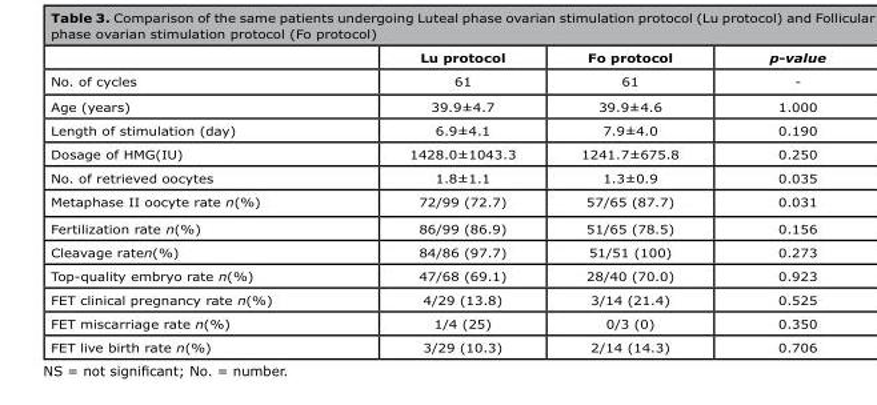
<table><thead><tr><td></td><td>Lu protocol</td><td>Fo protocol</td><td>p-value</td></tr></thead><tbody><tr><td>No. of cycles</td><td>61</td><td>61</td><td>-</td></tr><tr><td>Age (years)</td><td>39.9±4.7</td><td>39.9±4.6</td><td>1.000</td></tr><tr><td>Length of stimulation (day)</td><td>6.9±4.1</td><td>7.9±4.0</td><td>0.190</td></tr><tr><td>Dosage of HMG(IU)</td><td>1428.0±1043.3</td><td>1241.7±675.8</td><td>0.250</td></tr><tr><td>No. of retrieved oocytes</td><td>1.8±1.1</td><td>1.3±0.9</td><td>0.035</td></tr><tr><td>Metaphase II oocyte rate n(%)</td><td>72/99 (72.7)</td><td>57/65 (87.7)</td><td>0.031</td></tr><tr><td>Fertilization rate n(%)</td><td>86/99 (86.9)</td><td>51/65 (78.5)</td><td>0.156</td></tr><tr><td>Cleavage raten(%)</td><td>84/86 (97.7)</td><td>51/51 (100)</td><td>0.273</td></tr><tr><td>Top-quality embryo rate n(%)</td><td>47/68 (69.1)</td><td>28/40 (70.0)</td><td>0.923</td></tr><tr><td>FET clinical pregnancy rate n(%)</td><td>4/29 (13.8)</td><td>3/14 (21.4)</td><td>0.525</td></tr><tr><td>FET miscarriage rate n(%)</td><td>1/4 (25)</td><td>0/3 (0)</td><td>0.350</td></tr><tr><td>FET live birth rate n(%)</td><td>3/29 (10.3)</td><td>2/14 (14.3)</td><td>0.706</td></tr></tbody></table>